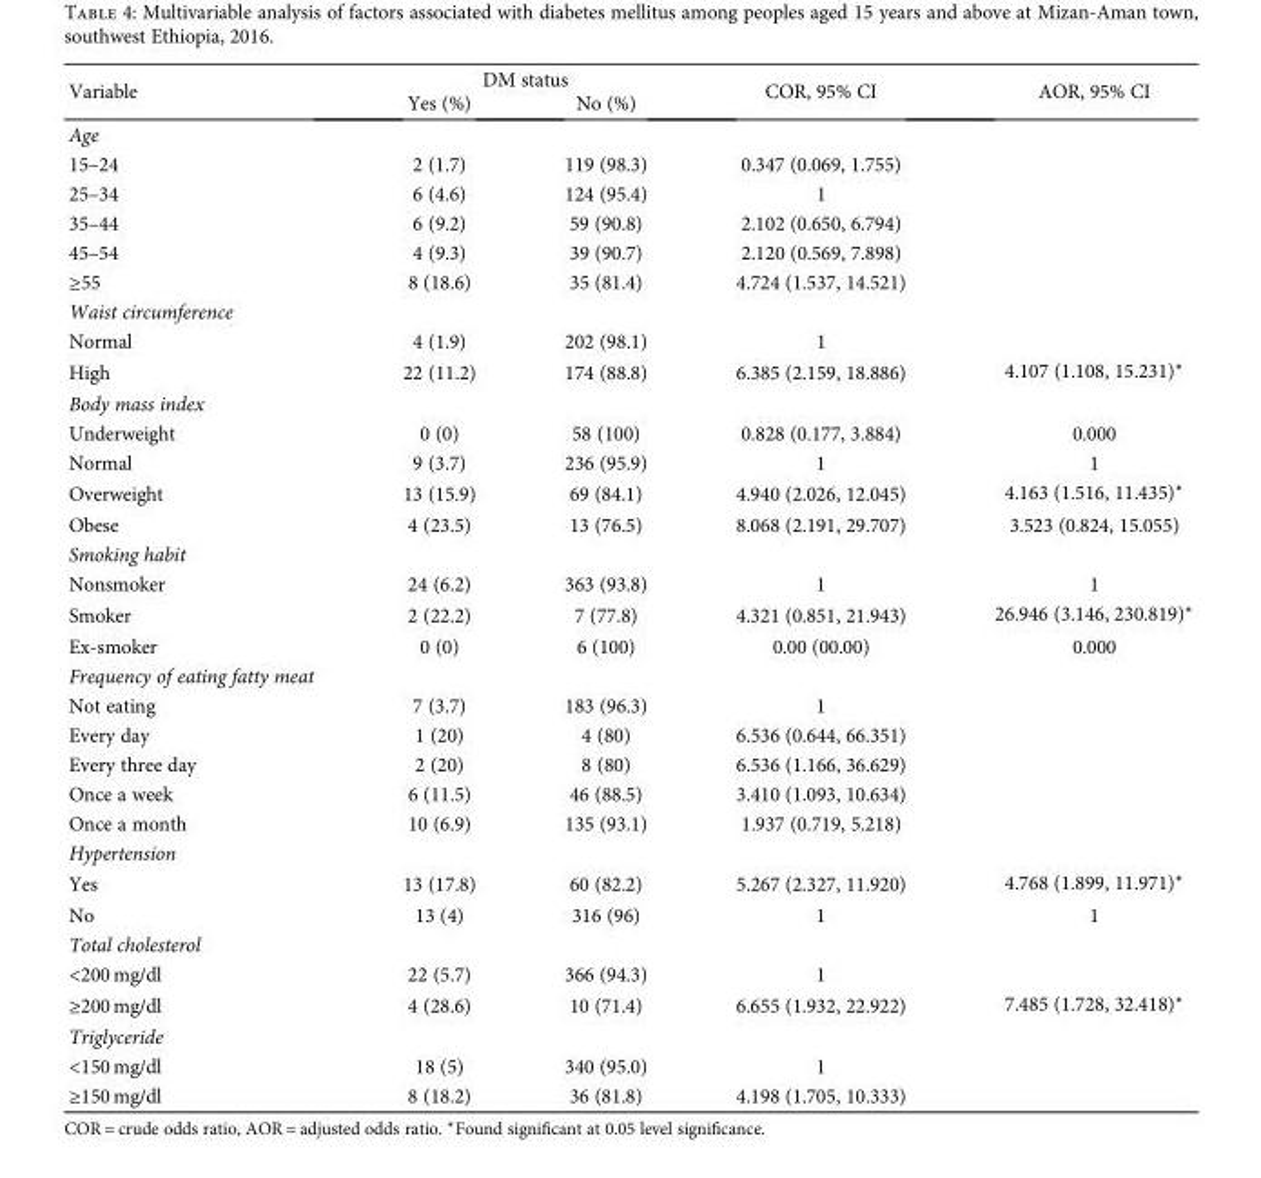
<table><thead><tr><td rowspan="2">Variable</td><td colspan="2">DM status</td><td rowspan="2">COR, 95% CI</td><td rowspan="2">AOR, 95% CI</td></tr><tr><td>Yes (%)</td><td>No (%)</td></tr></thead><tbody><tr><td colspan="5">Age</td></tr><tr><td>15–24</td><td>2 (1.7)</td><td>119 (98.3)</td><td>0.347 (0.069, 1.755)</td><td></td></tr><tr><td>25–34</td><td>6 (4.6)</td><td>124 (95.4)</td><td>1</td><td></td></tr><tr><td>35–44</td><td>6 (9.2)</td><td>59 (90.8)</td><td>2.102 (0.650, 6.794)</td><td></td></tr><tr><td>45–54</td><td>4 (9.3)</td><td>39 (90.7)</td><td>2.120 (0.569, 7.898)</td><td></td></tr><tr><td>≥55</td><td>8 (18.6)</td><td>35 (81.4)</td><td>4.724 (1.537, 14.521)</td><td></td></tr><tr><td colspan="5">Waist circumference</td></tr><tr><td>Normal</td><td>4 (1.9)</td><td>202 (98.1)</td><td>1</td><td></td></tr><tr><td>High</td><td>22 (11.2)</td><td>174 (88.8)</td><td>6.385 (2.159, 18.886)</td><td>4.107 (1.108, 15.231)∗</td></tr><tr><td colspan="5">Body mass index</td></tr><tr><td>Underweight</td><td>0 (0)</td><td>58 (100)</td><td>0.828 (0.177, 3.884)</td><td>0.000</td></tr><tr><td>Normal</td><td>9 (3.7)</td><td>236 (95.9)</td><td>1</td><td>1</td></tr><tr><td>Overweight</td><td>13 (15.9)</td><td>69 (84.1)</td><td>4.940 (2.026, 12.045)</td><td>4.163 (1.516, 11.435)∗</td></tr><tr><td>Obese</td><td>4 (23.5)</td><td>13 (76.5)</td><td>8.068 (2.191, 29.707)</td><td>3.523 (0.824, 15.055)</td></tr><tr><td colspan="5">Smoking habit</td></tr><tr><td>Nonsmoker</td><td>24 (6.2)</td><td>363 (93.8)</td><td>1</td><td>1</td></tr><tr><td>Smoker</td><td>2 (22.2)</td><td>7 (77.8)</td><td>4.321 (0.851, 21.943)</td><td>26.946 (3.146, 230.819)∗</td></tr><tr><td>Ex-smoker</td><td>0 (0)</td><td>6 (100)</td><td>0.00 (00.00)</td><td>0.000</td></tr><tr><td colspan="5">Frequency of eating fatty meat</td></tr><tr><td>Not eating</td><td>7 (3.7)</td><td>183 (96.3)</td><td>1</td><td></td></tr><tr><td>Every day</td><td>1 (20)</td><td>4 (80)</td><td>6.536 (0.644, 66.351)</td><td></td></tr><tr><td>Every three day</td><td>2 (20)</td><td>8 (80)</td><td>6.536 (1.166, 36.629)</td><td></td></tr><tr><td>Once a week</td><td>6 (11.5)</td><td>46 (88.5)</td><td>3.410 (1.093, 10.634)</td><td></td></tr><tr><td>Once a month</td><td>10 (6.9)</td><td>135 (93.1)</td><td>1.937 (0.719, 5.218)</td><td></td></tr><tr><td colspan="5">Hypertension</td></tr><tr><td>Yes</td><td>13 (17.8)</td><td>60 (82.2)</td><td>5.267 (2.327, 11.920)</td><td>4.768 (1.899, 11.971)∗</td></tr><tr><td>No</td><td>13 (4)</td><td>316 (96)</td><td>1</td><td>1</td></tr><tr><td colspan="5">Total cholesterol</td></tr><tr><td>&lt;200 mg/dl</td><td>22 (5.7)</td><td>366 (94.3)</td><td>1</td><td></td></tr><tr><td>≥200 mg/dl</td><td>4 (28.6)</td><td>10 (71.4)</td><td>6.655 (1.932, 22.922)</td><td>7.485 (1.728, 32.418)∗</td></tr><tr><td colspan="5">Triglyceride</td></tr><tr><td>&lt;150 mg/dl</td><td>18 (5)</td><td>340 (95.0)</td><td>1</td><td></td></tr><tr><td>≥150 mg/dl</td><td>8 (18.2)</td><td>36 (81.8)</td><td>4.198 (1.705, 10.333)</td><td></td></tr></tbody></table>